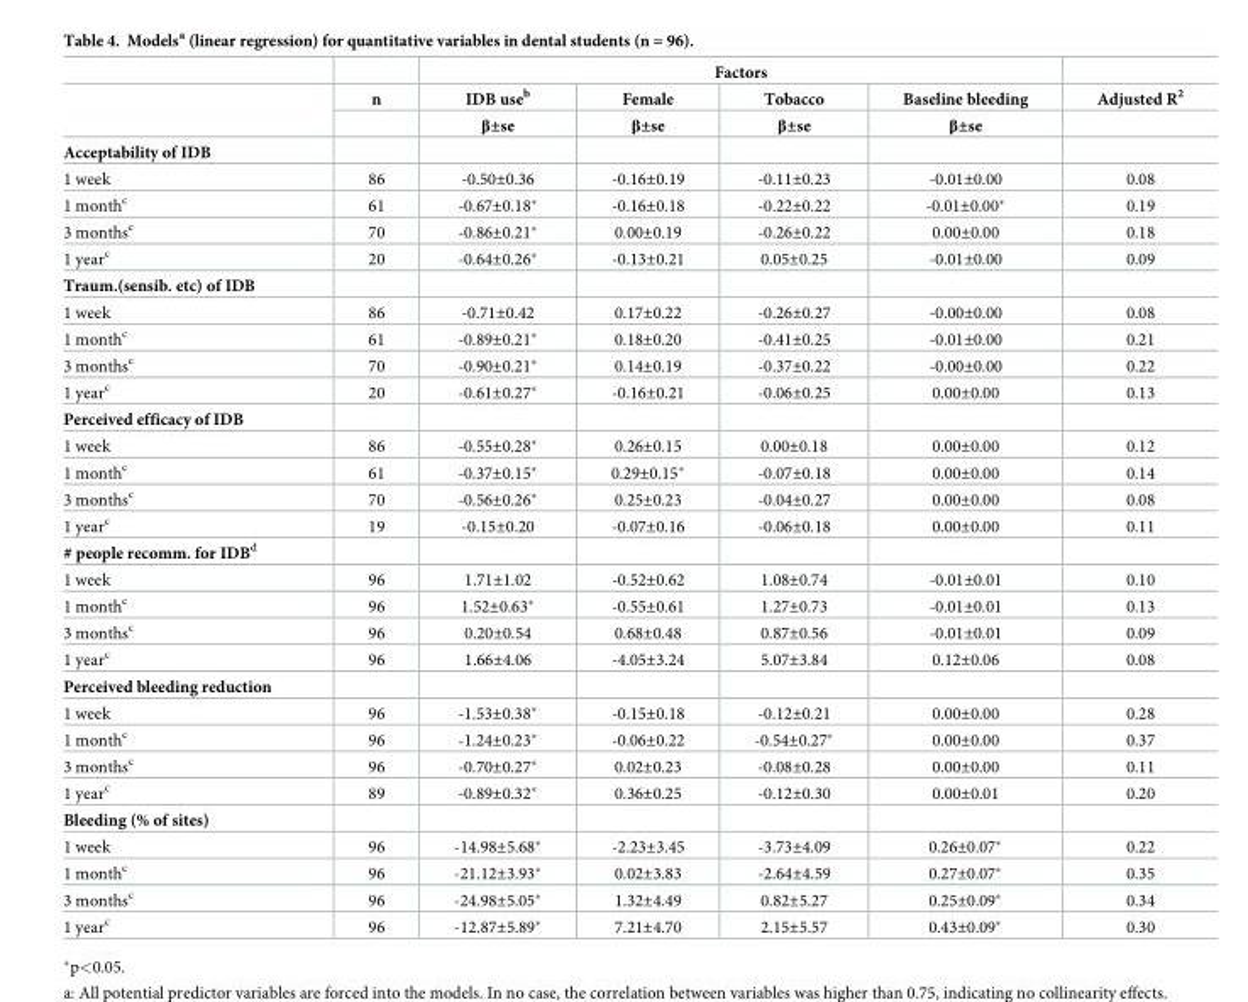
<table><thead><tr><td rowspan="3"></td><td rowspan="3">n</td><td colspan="4">Factors</td><td rowspan="3">Adjusted R<sup>2</sup></td></tr><tr><td rowspan="2">IDB use<sup>b</sup> β±se</td><td rowspan="2">Female β±se</td><td rowspan="2">Tobacco β±se</td><td rowspan="2">Baseline bleeding β±se</td></tr><tr></tr></thead><tbody><tr><td colspan="7">Acceptability of IDB</td></tr><tr><td>1 week</td><td>86</td><td>-0.50±0.36</td><td>-0.16±0.19</td><td>-0.11±0.23</td><td>-0.01±0.00</td><td>0.08</td></tr><tr><td>1 month<sup>c</sup></td><td>61</td><td>-0.67±0.18*</td><td>-0.16±0.18</td><td>-0.22±0.22</td><td>-0.01±0.00*</td><td>0.19</td></tr><tr><td>3 months<sup>c</sup></td><td>70</td><td>-0.86±0.21*</td><td>0.00±0.19</td><td>-0.26±0.22</td><td>0.00±0.00</td><td>0.18</td></tr><tr><td>1 year<sup>c</sup></td><td>20</td><td>-0.64±0.26*</td><td>-0.13±0.21</td><td>0.05±0.25</td><td>-0.01±0.00</td><td>0.09</td></tr><tr><td colspan="7">Traum.(sensib. etc) of IDB</td></tr><tr><td>1 week</td><td>86</td><td>-0.71±0.42</td><td>0.17±0.22</td><td>-0.26±0.27</td><td>-0.00±0.00</td><td>0.08</td></tr><tr><td>1 month<sup>c</sup></td><td>61</td><td>-0.89±0.21*</td><td>0.18±0.20</td><td>-0.41±0.25</td><td>-0.01±0.00</td><td>0.21</td></tr><tr><td>3 months<sup>c</sup></td><td>70</td><td>-0.90±0.21*</td><td>0.14±0.19</td><td>-0.37±0.22</td><td>-0.00±0.00</td><td>0.22</td></tr><tr><td>1 year<sup>c</sup></td><td>20</td><td>-0.61±0.27*</td><td>-0.16±0.21</td><td>-0.06±0.25</td><td>0.00±0.00</td><td>0.13</td></tr><tr><td colspan="7">Perceived efficacy of IDB</td></tr><tr><td>1 week</td><td>86</td><td>-0.55±0.28*</td><td>0.26±0.15</td><td>0.00±0.18</td><td>0.00±0.00</td><td>0.12</td></tr><tr><td>1 month<sup>c</sup></td><td>61</td><td>-0.37±0.15*</td><td>0.29±0.15*</td><td>-0.07±0.18</td><td>0.00±0.00</td><td>0.14</td></tr><tr><td>3 months<sup>c</sup></td><td>70</td><td>-0.56±0.26*</td><td>0.25±0.23</td><td>-0.04±0.27</td><td>0.00±0.00</td><td>0.08</td></tr><tr><td>1 year<sup>c</sup></td><td>19</td><td>-0.15±0.20</td><td>-0.07±0.16</td><td>-0.06±0.18</td><td>0.00±0.00</td><td>0.11</td></tr><tr><td colspan="7"># people recomm. for IDB<sup>d</sup></td></tr><tr><td>1 week</td><td>96</td><td>1.71±1.02</td><td>-0.52±0.62</td><td>1.08±0.74</td><td>-0.01±0.01</td><td>0.10</td></tr><tr><td>1 month<sup>c</sup></td><td>96</td><td>1.52±0.63*</td><td>-0.55±0.61</td><td>1.27±0.73</td><td>-0.01±0.01</td><td>0.13</td></tr><tr><td>3 months<sup>c</sup></td><td>96</td><td>0.20±0.54</td><td>0.68±0.48</td><td>0.87±0.56</td><td>-0.01±0.01</td><td>0.09</td></tr><tr><td>1 year<sup>c</sup></td><td>96</td><td>1.66±4.06</td><td>-4.05±3.24</td><td>5.07±3.84</td><td>0.12±0.06</td><td>0.08</td></tr><tr><td colspan="7">Perceived bleeding reduction</td></tr><tr><td>1 week</td><td>96</td><td>-1.53±0.38*</td><td>-0.15±0.18</td><td>-0.12±0.21</td><td>0.00±0.00</td><td>0.28</td></tr><tr><td>1 month<sup>c</sup></td><td>96</td><td>-1.24±0.23*</td><td>-0.06±0.22</td><td>-0.54±0.27*</td><td>0.00±0.00</td><td>0.37</td></tr><tr><td>3 months<sup>c</sup></td><td>96</td><td>-0.70±0.27*</td><td>0.02±0.23</td><td>-0.08±0.28</td><td>0.00±0.00</td><td>0.11</td></tr><tr><td>1 year<sup>c</sup></td><td>89</td><td>-0.89±0.32*</td><td>0.36±0.25</td><td>-0.12±0.30</td><td>0.00±0.01</td><td>0.20</td></tr><tr><td colspan="7">Bleeding (% of sites)</td></tr><tr><td>1 week</td><td>96</td><td>-14.98±5.68*</td><td>-2.23±3.45</td><td>-3.73±4.09</td><td>0.26±0.07*</td><td>0.22</td></tr><tr><td>1 month<sup>c</sup></td><td>96</td><td>-21.12±3.93*</td><td>0.02±3.83</td><td>-2.64±4.59</td><td>0.27±0.07*</td><td>0.35</td></tr><tr><td>3 months<sup>c</sup></td><td>96</td><td>-24.98±5.05*</td><td>1.32±4.49</td><td>0.82±5.27</td><td>0.25±0.09*</td><td>0.34</td></tr><tr><td>1 year<sup>c</sup></td><td>96</td><td>-12.87±5.89*</td><td>7.21±4.70</td><td>2.15±5.57</td><td>0.43±0.09*</td><td>0.30</td></tr></tbody></table>